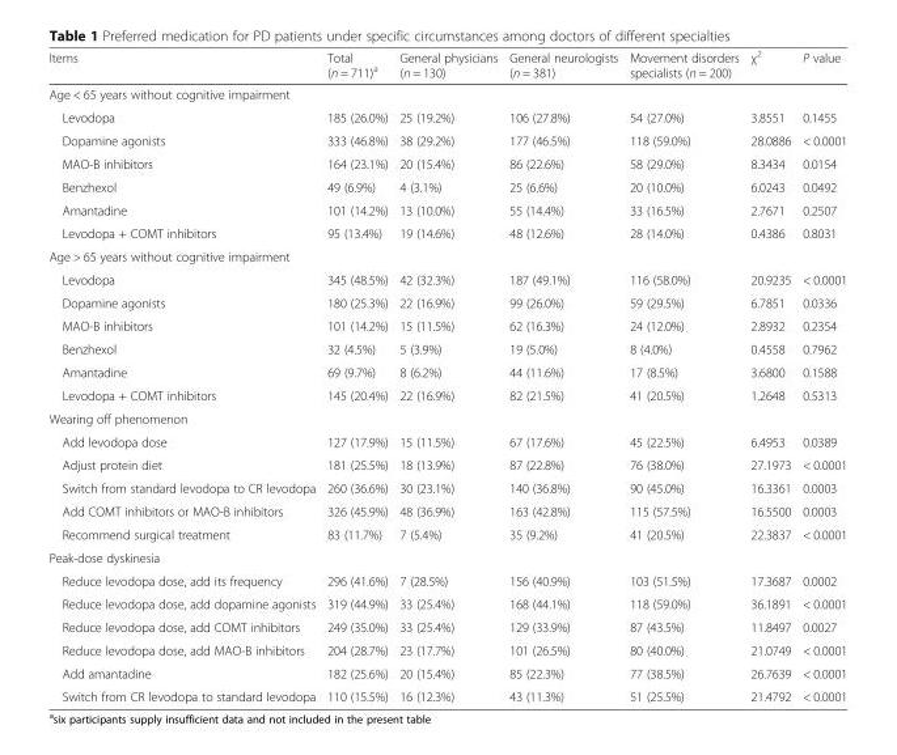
<table><thead><tr><td>Items</td><td>Total (n = 711)<sup>a</sup></td><td>General physicians (n = 130)</td><td>General neurologists (n = 381)</td><td>Movement disorders specialists (n = 200)</td><td>χ<sup>2</sup></td><td>P value</td></tr></thead><tbody><tr><td colspan="7">Age &lt; 65 years without cognitive impairment</td></tr><tr><td>Levodopa</td><td>185 (26.0%)</td><td>25 (19.2%)</td><td>106 (27.8%)</td><td>54 (27.0%)</td><td>3.8551</td><td>0.1455</td></tr><tr><td>Dopamine agonists</td><td>333 (46.8%)</td><td>38 (29.2%)</td><td>177 (46.5%)</td><td>118 (59.0%)</td><td>28.0886</td><td>&lt; 0.0001</td></tr><tr><td>MAO-B inhibitors</td><td>164 (23.1%)</td><td>20 (15.4%)</td><td>86 (22.6%)</td><td>58 (29.0%)</td><td>8.3434</td><td>0.0154</td></tr><tr><td>Benzhexol</td><td>49 (6.9%)</td><td>4 (3.1%)</td><td>25 (6.6%)</td><td>20 (10.0%)</td><td>6.0243</td><td>0.0492</td></tr><tr><td>Amantadine</td><td>101 (14.2%)</td><td>13 (10.0%)</td><td>55 (14.4%)</td><td>33 (16.5%)</td><td>2.7671</td><td>0.2507</td></tr><tr><td>Levodopa + COMT inhibitors</td><td>95 (13.4%)</td><td>19 (14.6%)</td><td>48 (12.6%)</td><td>28 (14.0%)</td><td>0.4386</td><td>0.8031</td></tr><tr><td colspan="7">Age &gt; 65 years without cognitive impairment</td></tr><tr><td>Levodopa</td><td>345 (48.5%)</td><td>42 (32.3%)</td><td>187 (49.1%)</td><td>116 (58.0%)</td><td>20.9235</td><td>&lt; 0.0001</td></tr><tr><td>Dopamine agonists</td><td>180 (25.3%)</td><td>22 (16.9%)</td><td>99 (26.0%)</td><td>59 (29.5%)</td><td>6.7851</td><td>0.0336</td></tr><tr><td>MAO-B inhibitors</td><td>101 (14.2%)</td><td>15 (11.5%)</td><td>62 (16.3%)</td><td>24 (12.0%)</td><td>2.8932</td><td>0.2354</td></tr><tr><td>Benzhexol</td><td>32 (4.5%)</td><td>5 (3.9%)</td><td>19 (5.0%)</td><td>8 (4.0%)</td><td>0.4558</td><td>0.7962</td></tr><tr><td>Amantadine</td><td>69 (9.7%)</td><td>8 (6.2%)</td><td>44 (11.6%)</td><td>17 (8.5%)</td><td>3.6800</td><td>0.1588</td></tr><tr><td>Levodopa + COMT inhibitors</td><td>145 (20.4%)</td><td>22 (16.9%)</td><td>82 (21.5%)</td><td>41 (20.5%)</td><td>1.2648</td><td>0.5313</td></tr><tr><td colspan="7">Wearing off phenomenon</td></tr><tr><td>Add levodopa dose</td><td>127 (17.9%)</td><td>15 (11.5%)</td><td>67 (17.6%)</td><td>45 (22.5%)</td><td>6.4953</td><td>0.0389</td></tr><tr><td>Adjust protein diet</td><td>181 (25.5%)</td><td>18 (13.9%)</td><td>87 (22.8%)</td><td>76 (38.0%)</td><td>27.1973</td><td>&lt; 0.0001</td></tr><tr><td>Switch from standard levodopa to CR levodopa</td><td>260 (36.6%)</td><td>30 (23.1%)</td><td>140 (36.8%)</td><td>90 (45.0%)</td><td>16.3361</td><td>0.0003</td></tr><tr><td>Add COMT inhibitors or MAO-B inhibitors</td><td>326 (45.9%)</td><td>48 (36.9%)</td><td>163 (42.8%)</td><td>115 (57.5%)</td><td>16.5500</td><td>0.0003</td></tr><tr><td>Recommend surgical treatment</td><td>83 (11.7%)</td><td>7 (5.4%)</td><td>35 (9.2%)</td><td>41 (20.5%)</td><td>22.3837</td><td>&lt; 0.0001</td></tr><tr><td colspan="7">Peak-dose dyskinesia</td></tr><tr><td>Reduce levodopa dose, add its frequency</td><td>296 (41.6%)</td><td>7 (28.5%)</td><td>156 (40.9%)</td><td>103 (51.5%)</td><td>17.3687</td><td>0.0002</td></tr><tr><td>Reduce levodopa dose, add dopamine agonists</td><td>319 (44.9%)</td><td>33 (25.4%)</td><td>168 (44.1%)</td><td>118 (59.0%)</td><td>36.1891</td><td>&lt; 0.0001</td></tr><tr><td>Reduce levodopa dose, add COMT inhibitors</td><td>249 (35.0%)</td><td>33 (25.4%)</td><td>129 (33.9%)</td><td>87 (43.5%)</td><td>11.8497</td><td>0.0027</td></tr><tr><td>Reduce levodopa dose, add MAO-B inhibitors</td><td>204 (28.7%)</td><td>23 (17.7%)</td><td>101 (26.5%)</td><td>80 (40.0%)</td><td>21.0749</td><td>&lt; 0.0001</td></tr><tr><td>Add amantadine</td><td>182 (25.6%)</td><td>20 (15.4%)</td><td>85 (22.3%)</td><td>77 (38.5%)</td><td>26.7639</td><td>&lt; 0.0001</td></tr><tr><td>Switch from CR levodopa to standard levodopa</td><td>110 (15.5%)</td><td>16 (12.3%)</td><td>43 (11.3%)</td><td>51 (25.5%)</td><td>21.4792</td><td>&lt; 0.0001</td></tr></tbody></table>